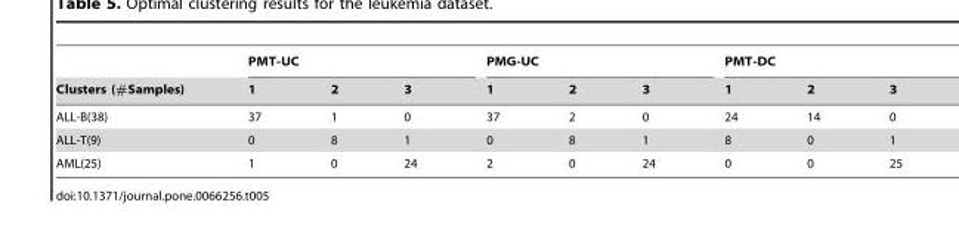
<table><thead><tr><td rowspan="2">Clusters (#Samples)</td><td colspan="3">PMT-UC</td><td colspan="3">PMG-UC</td><td colspan="3">PMT-DC</td></tr><tr><td>1</td><td>2</td><td>3</td><td>1</td><td>2</td><td>3</td><td>1</td><td>2</td><td>3</td></tr></thead><tbody><tr><td>ALL-B(38)</td><td>37</td><td>1</td><td>0</td><td>37</td><td>2</td><td>0</td><td>24</td><td>14</td><td>0</td></tr><tr><td>ALL-T(9)</td><td>0</td><td>8</td><td>1</td><td>0</td><td>8</td><td>1</td><td>8</td><td>0</td><td>1</td></tr><tr><td>AML(25)</td><td>1</td><td>0</td><td>24</td><td>2</td><td>0</td><td>24</td><td>0</td><td>0</td><td>25</td></tr></tbody></table>